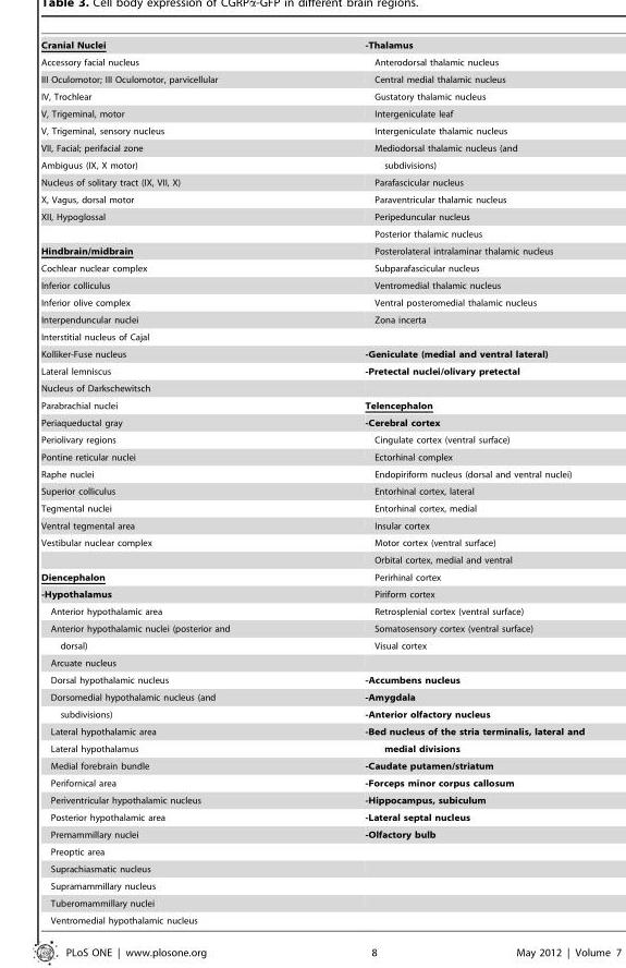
<table><tbody><tr><td>Cranial Nuclei</td><td>-Thalamus</td></tr><tr><td>Accessory facial nucleus</td><td>Anterodorsal thalamic nucleus</td></tr><tr><td>III Oculomotor; III Oculomotor, parvicellular</td><td>Central medial thalamic nucleus</td></tr><tr><td>IV, Trochlear</td><td>Gustatory thalamic nucleus</td></tr><tr><td>V, Trigeminal, motor</td><td>Intergeniculate leaf</td></tr><tr><td>V, Trigeminal, sensory nucleus</td><td>Intergeniculate thalamic nucleus</td></tr><tr><td>VII, Facial; perifacial zone</td><td>Mediodorsal thalamic nucleus (and</td></tr><tr><td>Ambiguus (IX, X motor)</td><td>subdivisions)</td></tr><tr><td>Nucleus of solitary tract (IX, VII, X)</td><td>Parafascicular nucleus</td></tr><tr><td>X, Vagus, dorsal motor</td><td>Paraventricular thalamic nucleus</td></tr><tr><td rowspan="2">XII, Hypoglossal</td><td>Peripeduncular nucleus</td></tr><tr><td>Posterior thalamic nucleus</td></tr><tr><td>Hindbrain/midbrain</td><td>Posterolateral intralaminar thalamic nucleus</td></tr><tr><td>Cochlear nuclear complex</td><td>Subparafascicular nucleus</td></tr><tr><td>Inferior colliculus</td><td>Ventromedial thalamic nucleus</td></tr><tr><td>Inferior olive complex</td><td>Ventral posteromedial thalamic nucleus</td></tr><tr><td>Interpenduncular nuclei</td><td>Zona incerta</td></tr><tr><td colspan="2">Interstitial nucleus of Cajal</td></tr><tr><td>Kolliker-Fuse nucleus</td><td>-Geniculate (medial and ventral lateral)</td></tr><tr><td>Lateral lemniscus</td><td>-Pretectal nuclei/olivary pretectal</td></tr><tr><td colspan="2">Nucleus of Darkschewitsch</td></tr><tr><td>Parabrachial nuclei</td><td>Telencephalon</td></tr><tr><td>Periaqueductal gray</td><td>-Cerebral cortex</td></tr><tr><td>Periolivary regions</td><td>Cingulate cortex (ventral surface)</td></tr><tr><td>Pontine reticular nuclei</td><td>Ectorhinal complex</td></tr><tr><td>Raphe nuclei</td><td>Endopiriform nucleus (dorsal and ventral nuclei)</td></tr><tr><td>Superior colliculus</td><td>Entorhinal cortex, lateral</td></tr><tr><td>Tegmental nuclei</td><td>Entorhinal cortex, medial</td></tr><tr><td>Ventral tegmental area</td><td>Insular cortex</td></tr><tr><td rowspan="2">Vestibular nuclear complex</td><td>Motor cortex (ventral surface)</td></tr><tr><td>Orbital cortex, medial and ventral</td></tr><tr><td>Diencephalon</td><td>Perirhinal cortex</td></tr><tr><td>-Hypothalamus</td><td>Piriform cortex</td></tr><tr><td>Anterior hypothalamic area</td><td>Retrosplenial cortex (ventral surface)</td></tr><tr><td>Anterior hypothalamic nuclei (posterior and</td><td>Somatosensory cortex (ventral surface)</td></tr><tr><td>dorsal)</td><td>Visual cortex</td></tr><tr><td colspan="2">Arcuate nucleus</td></tr><tr><td>Dorsal hypothalamic nucleus</td><td>-Accumbens nucleus</td></tr><tr><td>Dorsomedial hypothalamic nucleus (and</td><td>-Amygdala</td></tr><tr><td>subdivisions)</td><td>-Anterior olfactory nucleus</td></tr><tr><td>Lateral hypothalamic area</td><td>-Bed nucleus of the stria terminalis, lateral and</td></tr><tr><td>Lateral hypothalamus</td><td>medial divisions</td></tr><tr><td>Medial forebrain bundle</td><td>-Caudate putamen/striatum</td></tr><tr><td>Perifornical area</td><td>-Forceps minor corpus callosum</td></tr><tr><td>Periventricular hypothalamic nucleus</td><td>-Hippocampus, subiculum</td></tr><tr><td>Posterior hypothalamic area</td><td>-Lateral septal nucleus</td></tr><tr><td>Premammillary nuclei</td><td>-Olfactory bulb</td></tr><tr><td colspan="2">Preoptic area</td></tr><tr><td colspan="2">Suprachiasmatic nucleus</td></tr><tr><td colspan="2">Supramammillary nucleus</td></tr><tr><td colspan="2">Tuberomammillary nuclei</td></tr><tr><td>Ventromedial hypothalamic nucleus</td><td></td></tr></tbody></table>